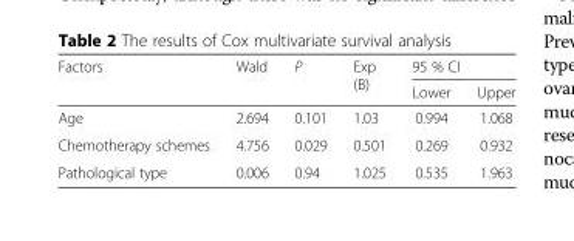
<table><thead><tr><td rowspan="2">Factors</td><td rowspan="2">Wald</td><td rowspan="2">P</td><td rowspan="2">Exp (B)</td><td colspan="2">95 % CI</td></tr><tr><td>Lower</td><td>Upper</td></tr></thead><tbody><tr><td>Age</td><td>2.694</td><td>0.101</td><td>1.03</td><td>0.994</td><td>1.068</td></tr><tr><td>Chemotherapy schemes</td><td>4.756</td><td>0.029</td><td>0.501</td><td>0.269</td><td>0.932</td></tr><tr><td>Pathological type</td><td>0.006</td><td>0.94</td><td>1.025</td><td>0.535</td><td>1.963</td></tr></tbody></table>